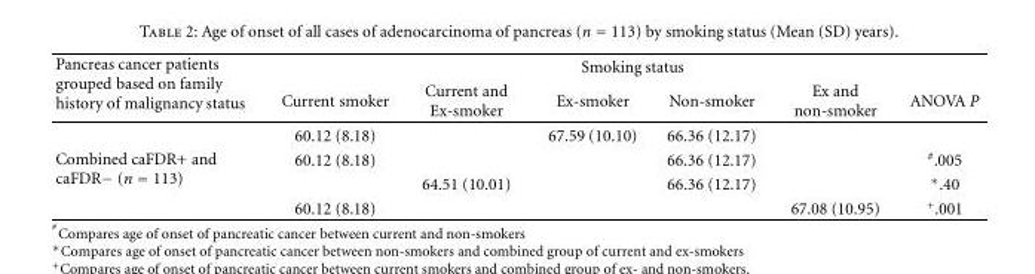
<table><thead><tr><td rowspan="2">Pancreas cancer patients grouped based on family history of malignancy status</td><td colspan="6">Smoking status</td></tr><tr><td>Current smoker</td><td>Current and Ex-smoker</td><td>Ex-smoker</td><td>Non-smoker</td><td>Ex and non-smoker</td><td>ANOVA P</td></tr></thead><tbody><tr><td rowspan="4">Combined caFDR+ and caFDR− (n = 113)</td><td>60.12 (8.18)</td><td></td><td>67.59 (10.10)</td><td>66.36 (12.17)</td><td></td><td></td></tr><tr><td>60.12 (8.18)</td><td></td><td></td><td>66.36 (12.17)</td><td></td><td><sup>#</sup>.005</td></tr><tr><td></td><td>64.51 (10.01)</td><td></td><td>66.36 (12.17)</td><td></td><td>∗.40</td></tr><tr><td>60.12 (8.18)</td><td></td><td></td><td></td><td>67.08 (10.95)</td><td><sup>+</sup>.001</td></tr></tbody></table>